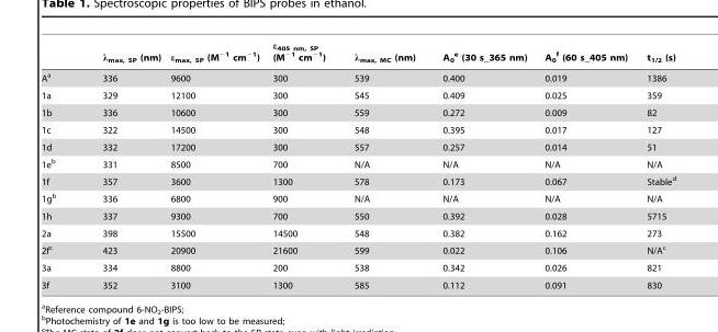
<table><thead><tr><td></td><td>λ<sub>max, SP</sub> (nm)</td><td>ε<sub>max, SP</sub> (M<sup>−1</sup> cm<sup>−1</sup>)</td><td>ε<sub>405 nm, SP</sub> (M<sup>−1</sup> cm<sup>−1</sup>)</td><td>λ<sub>max, MC</sub> (nm)</td><td>A<sub>0</sub> e (30 s_365 nm)</td><td>A<sub>0</sub> f (60 s_405 nm)</td><td>t<sub>1/2</sub> (s)</td></tr></thead><tbody><tr><td>A<sup>a</sup></td><td>336</td><td>9600</td><td>300</td><td>539</td><td>0.400</td><td>0.019</td><td>1386</td></tr><tr><td>1a</td><td>329</td><td>12100</td><td>300</td><td>545</td><td>0.409</td><td>0.025</td><td>359</td></tr><tr><td>1b</td><td>336</td><td>10600</td><td>300</td><td>559</td><td>0.272</td><td>0.009</td><td>82</td></tr><tr><td>1c</td><td>322</td><td>14500</td><td>300</td><td>548</td><td>0.395</td><td>0.017</td><td>127</td></tr><tr><td>1d</td><td>332</td><td>17200</td><td>300</td><td>557</td><td>0.257</td><td>0.014</td><td>51</td></tr><tr><td>1e<sup>b</sup></td><td>331</td><td>8500</td><td>700</td><td>N/A</td><td>N/A</td><td>N/A</td><td>N/A</td></tr><tr><td>1f</td><td>357</td><td>3600</td><td>1300</td><td>578</td><td>0.173</td><td>0.067</td><td>Stable<sup>d</sup></td></tr><tr><td>1g<sup>b</sup></td><td>336</td><td>6800</td><td>900</td><td>N/A</td><td>N/A</td><td>N/A</td><td>N/A</td></tr><tr><td>1h</td><td>337</td><td>9300</td><td>700</td><td>550</td><td>0.392</td><td>0.028</td><td>5715</td></tr><tr><td>2a</td><td>398</td><td>15500</td><td>14500</td><td>548</td><td>0.382</td><td>0.162</td><td>273</td></tr><tr><td>2f<sup>c</sup></td><td>423</td><td>20900</td><td>21600</td><td>599</td><td>0.022</td><td>0.106</td><td>N/A<sup>c</sup></td></tr><tr><td>3a</td><td>334</td><td>8800</td><td>200</td><td>538</td><td>0.342</td><td>0.026</td><td>821</td></tr><tr><td>3f</td><td>352</td><td>3100</td><td>1300</td><td>585</td><td>0.112</td><td>0.091</td><td>830</td></tr></tbody></table>